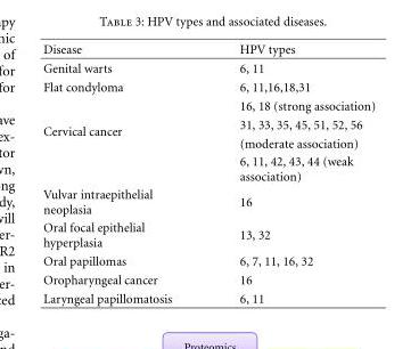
<table><thead><tr><td>Disease</td><td>HPV types</td></tr></thead><tbody><tr><td>Genital warts</td><td>6, 11</td></tr><tr><td>Flat condyloma</td><td>6, 11,16,18,31</td></tr><tr><td rowspan="4">Cervical cancer</td><td>16, 18 (strong association)</td></tr><tr><td>31, 33, 35, 45, 51, 52, 56</td></tr><tr><td>(moderate association)</td></tr><tr><td>6, 11, 42, 43, 44 (weak association)</td></tr><tr><td>Vulvar intraepithelial neoplasia</td><td>16</td></tr><tr><td>Oral focal epithelial hyperplasia</td><td>13, 32</td></tr><tr><td>Oral papillomas</td><td>6, 7, 11, 16, 32</td></tr><tr><td>Oropharyngeal cancer</td><td>16</td></tr><tr><td>Laryngeal papillomatosis</td><td>6, 11</td></tr></tbody></table>